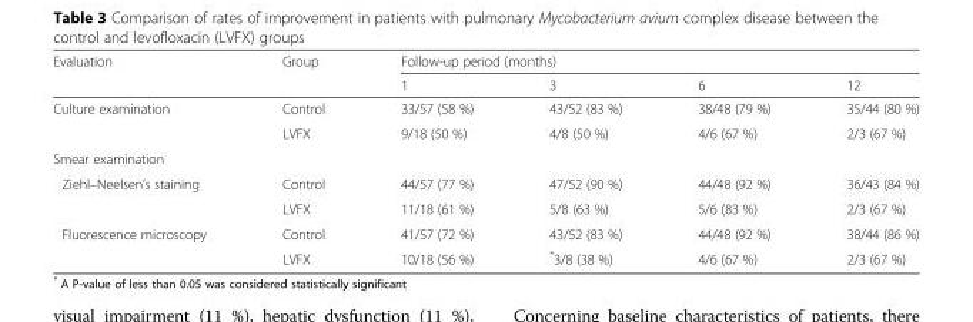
<table><thead><tr><td rowspan="2">Evaluation</td><td rowspan="2">Group</td><td colspan="4">Follow-up period (months)</td></tr><tr><td>1</td><td>3</td><td>6</td><td>12</td></tr></thead><tbody><tr><td rowspan="2">Culture examination</td><td>Control</td><td>33/57 (58 %)</td><td>43/52 (83 %)</td><td>38/48 (79 %)</td><td>35/44 (80 %)</td></tr><tr><td>LVFX</td><td>9/18 (50 %)</td><td>4/8 (50 %)</td><td>4/6 (67 %)</td><td>2/3 (67 %)</td></tr><tr><td colspan="6">Smear examination</td></tr><tr><td rowspan="2">Ziehl–Neelsen’s staining</td><td>Control</td><td>44/57 (77 %)</td><td>47/52 (90 %)</td><td>44/48 (92 %)</td><td>36/43 (84 %)</td></tr><tr><td>LVFX</td><td>11/18 (61 %)</td><td>5/8 (63 %)</td><td>5/6 (83 %)</td><td>2/3 (67 %)</td></tr><tr><td rowspan="2">Fluorescence microscopy</td><td>Control</td><td>41/57 (72 %)</td><td>43/52 (83 %)</td><td>44/48 (92 %)</td><td>38/44 (86 %)</td></tr><tr><td>LVFX</td><td>10/18 (56 %)</td><td>*3/8 (38 %)</td><td>4/6 (67 %)</td><td>2/3 (67 %)</td></tr></tbody></table>